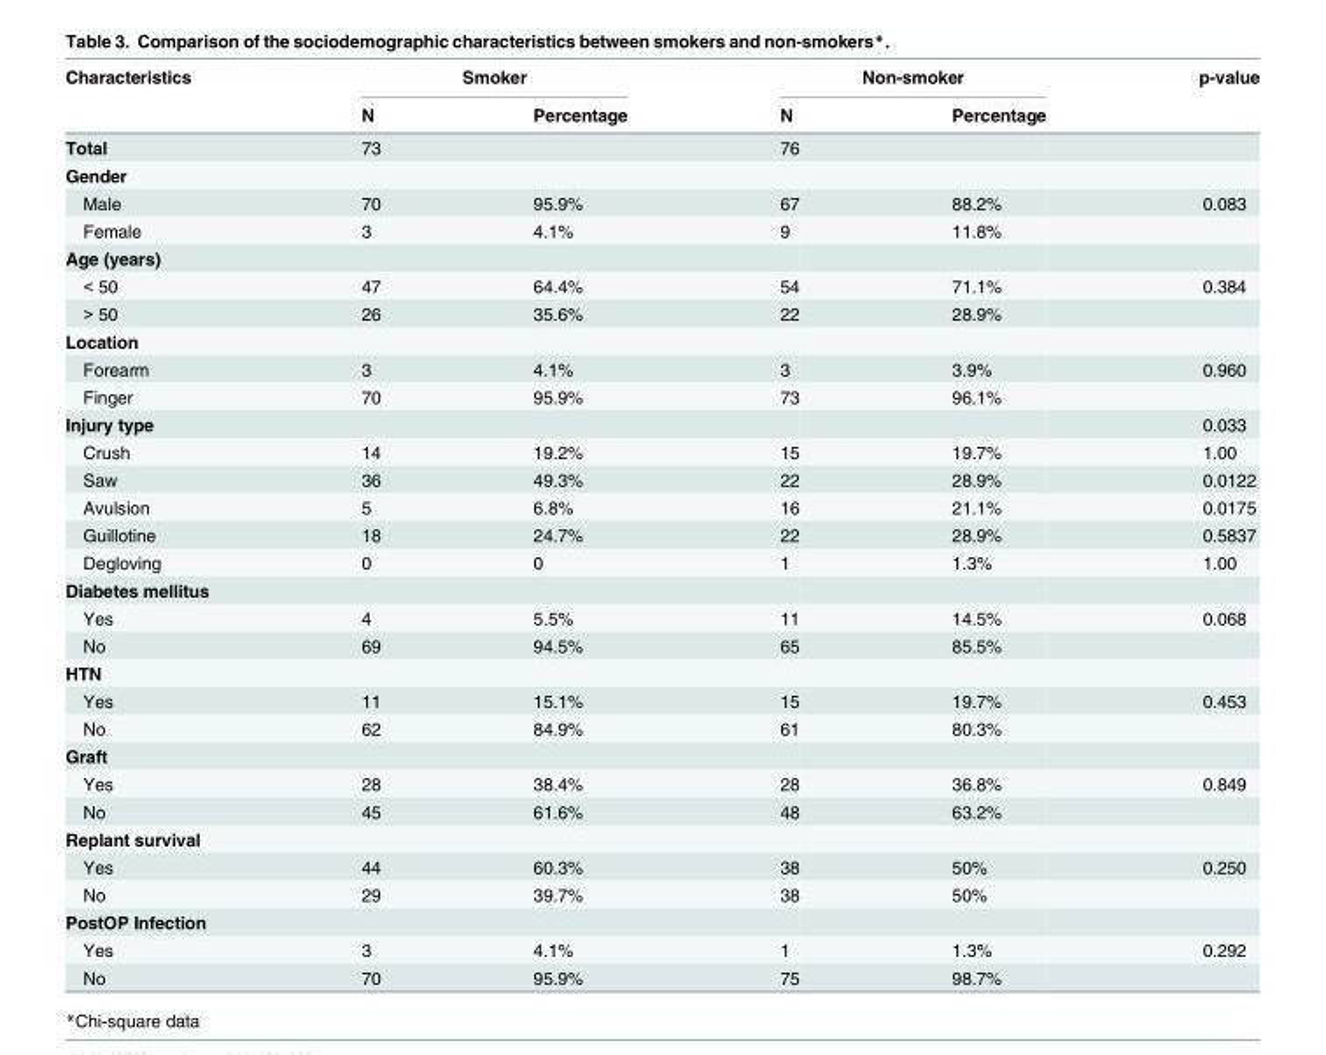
<table><thead><tr><td rowspan="2">Characteristics</td><td colspan="2">Smoker</td><td colspan="2">Non-smoker</td><td rowspan="2">p-value</td></tr><tr><td>N</td><td>Percentage</td><td>N</td><td>Percentage</td></tr></thead><tbody><tr><td>Total</td><td>73</td><td></td><td>76</td><td></td><td></td></tr><tr><td colspan="6">Gender</td></tr><tr><td>Male</td><td>70</td><td>95.9%</td><td>67</td><td>88.2%</td><td>0.083</td></tr><tr><td>Female</td><td>3</td><td>4.1%</td><td>9</td><td>11.8%</td><td></td></tr><tr><td colspan="6">Age (years)</td></tr><tr><td>&lt; 50</td><td>47</td><td>64.4%</td><td>54</td><td>71.1%</td><td>0.384</td></tr><tr><td>&gt; 50</td><td>26</td><td>35.6%</td><td>22</td><td>28.9%</td><td></td></tr><tr><td colspan="6">Location</td></tr><tr><td>Forearm</td><td>3</td><td>4.1%</td><td>3</td><td>3.9%</td><td>0.960</td></tr><tr><td>Finger</td><td>70</td><td>95.9%</td><td>73</td><td>96.1%</td><td></td></tr><tr><td>Injury type</td><td></td><td></td><td></td><td></td><td>0.033</td></tr><tr><td>Crush</td><td>14</td><td>19.2%</td><td>15</td><td>19.7%</td><td>1.00</td></tr><tr><td>Saw</td><td>36</td><td>49.3%</td><td>22</td><td>28.9%</td><td>0.0122</td></tr><tr><td>Avulsion</td><td>5</td><td>6.8%</td><td>16</td><td>21.1%</td><td>0.0175</td></tr><tr><td>Guillotine</td><td>18</td><td>24.7%</td><td>22</td><td>28.9%</td><td>0.5837</td></tr><tr><td>Degloving</td><td>0</td><td>0</td><td>1</td><td>1.3%</td><td>1.00</td></tr><tr><td colspan="6">Diabetes mellitus</td></tr><tr><td>Yes</td><td>4</td><td>5.5%</td><td>11</td><td>14.5%</td><td>0.068</td></tr><tr><td>No</td><td>69</td><td>94.5%</td><td>65</td><td>85.5%</td><td></td></tr><tr><td colspan="6">HTN</td></tr><tr><td>Yes</td><td>11</td><td>15.1%</td><td>15</td><td>19.7%</td><td>0.453</td></tr><tr><td>No</td><td>62</td><td>84.9%</td><td>61</td><td>80.3%</td><td></td></tr><tr><td colspan="6">Graft</td></tr><tr><td>Yes</td><td>28</td><td>38.4%</td><td>28</td><td>36.8%</td><td>0.849</td></tr><tr><td>No</td><td>45</td><td>61.6%</td><td>48</td><td>63.2%</td><td></td></tr><tr><td colspan="6">Replant survival</td></tr><tr><td>Yes</td><td>44</td><td>60.3%</td><td>38</td><td>50%</td><td>0.250</td></tr><tr><td>No</td><td>29</td><td>39.7%</td><td>38</td><td>50%</td><td></td></tr><tr><td colspan="6">PostOP Infection</td></tr><tr><td>Yes</td><td>3</td><td>4.1%</td><td>1</td><td>1.3%</td><td>0.292</td></tr><tr><td>No</td><td>70</td><td>95.9%</td><td>75</td><td>98.7%</td><td></td></tr></tbody></table>